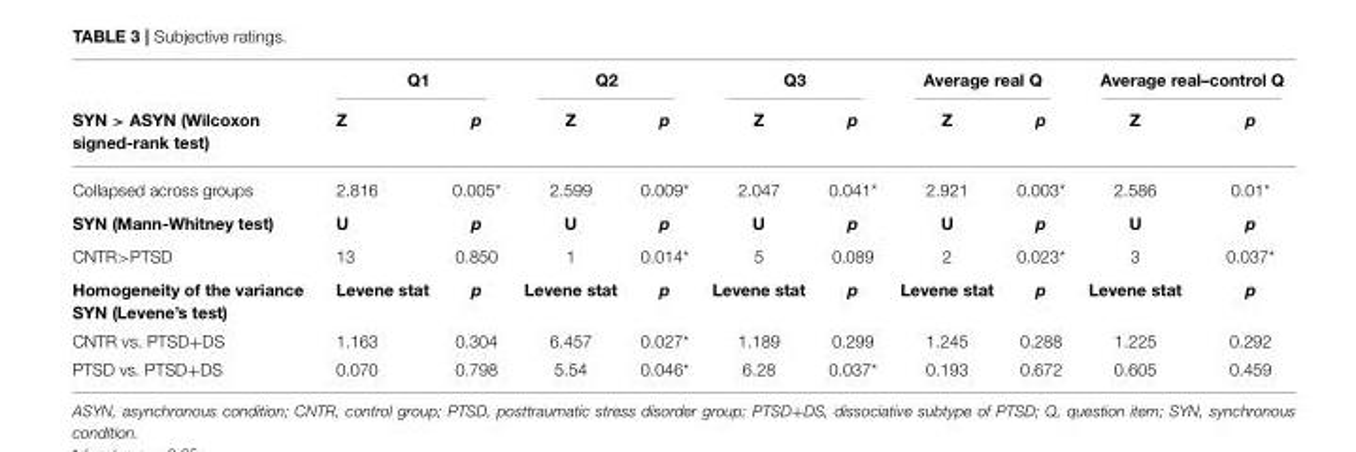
<table><thead><tr><td rowspan="2">SYN &gt; ASYN (Wilcoxon signed-rank test)</td><td colspan="2">Q1</td><td colspan="2">Q2</td><td colspan="2">Q3</td><td colspan="2">Average real Q</td><td colspan="2">Average real–control Q</td></tr><tr><td>Z</td><td>p</td><td>Z</td><td>p</td><td>Z</td><td>p</td><td>Z</td><td>p</td><td>Z</td><td>p</td></tr></thead><tbody><tr><td>Collapsed across groups</td><td>2.816</td><td>0.005*</td><td>2.599</td><td>0.009*</td><td>2.047</td><td>0.041*</td><td>2.921</td><td>0.003*</td><td>2.586</td><td>0.01*</td></tr><tr><td>SYN (Mann-Whitney test)</td><td>U</td><td>p</td><td>U</td><td>p</td><td>U</td><td>p</td><td>U</td><td>p</td><td>U</td><td>p</td></tr><tr><td>CNTR&gt;PTSD</td><td>13</td><td>0.850</td><td>1</td><td>0.014*</td><td>5</td><td>0.089</td><td>2</td><td>0.023*</td><td>3</td><td>0.037*</td></tr><tr><td>Homogeneity of the variance SYN (Levene’s test)</td><td>Levene stat</td><td>p</td><td>Levene stat</td><td>p</td><td>Levene stat</td><td>p</td><td>Levene stat</td><td>p</td><td>Levene stat</td><td>p</td></tr><tr><td>CNTR vs. PTSD+DS</td><td>1.163</td><td>0.304</td><td>6.457</td><td>0.027*</td><td>1.189</td><td>0.299</td><td>1.245</td><td>0.288</td><td>1.225</td><td>0.292</td></tr><tr><td>PTSD vs. PTSD+DS</td><td>0.070</td><td>0.798</td><td>5.54</td><td>0.046*</td><td>6.28</td><td>0.037*</td><td>0.193</td><td>0.672</td><td>0.605</td><td>0.459</td></tr></tbody></table>